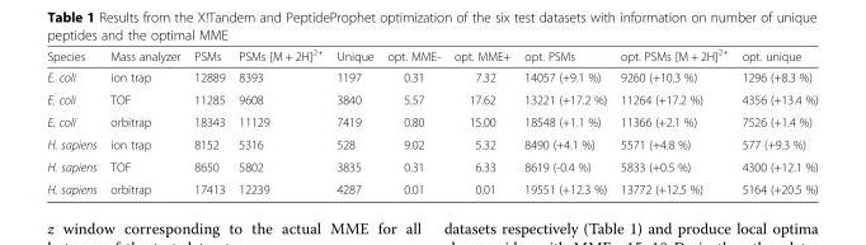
<table><thead><tr><td>Species</td><td>Mass analyzer</td><td>PSMs</td><td>PSMs [M + 2H]<sup>2+</sup></td><td>Unique</td><td>opt. MME-</td><td>opt. MME+</td><td>opt. PSMs</td><td>opt. PSMs [M + 2H]<sup>2+</sup></td><td>opt. unique</td></tr></thead><tbody><tr><td>E. coli</td><td>ion trap</td><td>12889</td><td>8393</td><td>1197</td><td>0.31</td><td>7.32</td><td>14057 (+9.1 %)</td><td>9260 (+10.3 %)</td><td>1296 (+8.3 %)</td></tr><tr><td>E. coli</td><td>TOF</td><td>11285</td><td>9608</td><td>3840</td><td>5.57</td><td>17.62</td><td>13221 (+17.2 %)</td><td>11264 (+17.2 %)</td><td>4356 (+13.4 %)</td></tr><tr><td>E. coli</td><td>orbitrap</td><td>18343</td><td>11129</td><td>7419</td><td>0.80</td><td>15.00</td><td>18548 (+1.1 %)</td><td>11366 (+2.1 %)</td><td>7526 (+1.4 %)</td></tr><tr><td>H. sapiens</td><td>ion trap</td><td>8152</td><td>5316</td><td>528</td><td>9.02</td><td>5.32</td><td>8490 (+4.1 %)</td><td>5571 (+4.8 %)</td><td>577 (+9.3 %)</td></tr><tr><td>H. sapiens</td><td>TOF</td><td>8650</td><td>5802</td><td>3835</td><td>0.31</td><td>6.33</td><td>8619 (-0.4 %)</td><td>5833 (+0.5 %)</td><td>4300 (+12.1 %)</td></tr><tr><td>H. sapiens</td><td>orbitrap</td><td>17413</td><td>12239</td><td>4287</td><td>0.01</td><td>0.01</td><td>19551 (+12.3 %)</td><td>13772 (+12.5 %)</td><td>5164 (+20.5 %)</td></tr></tbody></table>